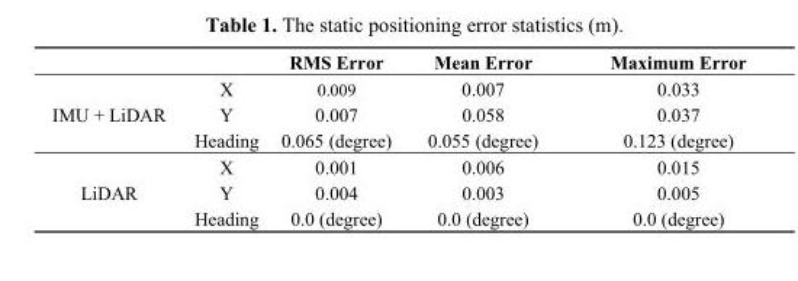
<table><thead><tr><td></td><td></td><td>RMS Error</td><td>Mean Error</td><td>Maximum Error</td></tr></thead><tbody><tr><td rowspan="3">IMU + LiDAR</td><td>X</td><td>0.009</td><td>0.007</td><td>0.033</td></tr><tr><td>Y</td><td>0.007</td><td>0.058</td><td>0.037</td></tr><tr><td>Heading</td><td>0.065 (degree)</td><td>0.055 (degree)</td><td>0.123 (degree)</td></tr><tr><td rowspan="3">LiDAR</td><td>X</td><td>0.001</td><td>0.006</td><td>0.015</td></tr><tr><td>Y</td><td>0.004</td><td>0.003</td><td>0.005</td></tr><tr><td>Heading</td><td>0.0 (degree)</td><td>0.0 (degree)</td><td>0.0 (degree)</td></tr></tbody></table>